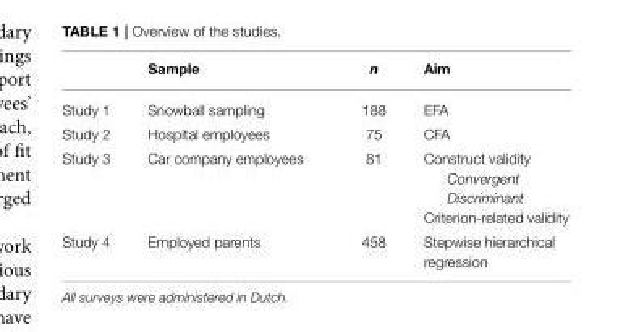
<table><thead><tr><td></td><td>Sample</td><td>n</td><td>Aim</td></tr></thead><tbody><tr><td>Study 1</td><td>Snowball sampling</td><td>188</td><td>EFA</td></tr><tr><td>Study 2</td><td>Hospital employees</td><td>75</td><td>CFA</td></tr><tr><td>Study 3</td><td>Car company employees</td><td>81</td><td>Construct validity Convergent Discriminant Criterion-related validity</td></tr><tr><td>Study 4</td><td>Employed parents</td><td>458</td><td>Stepwise hierarchical regression</td></tr></tbody></table>